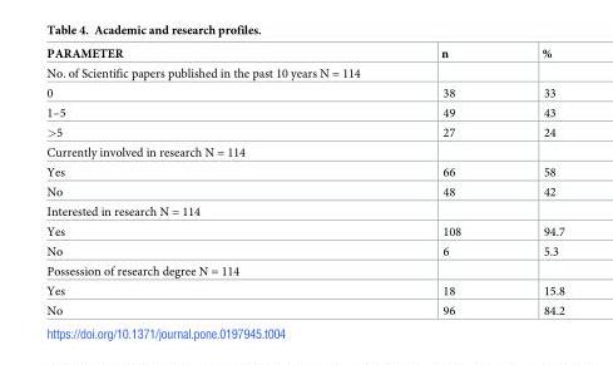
<table><thead><tr><td>PARAMETER</td><td>n</td><td>%</td></tr></thead><tbody><tr><td colspan="3">No. of Scientific papers published in the past 10 years N = 114</td></tr><tr><td>0</td><td>38</td><td>33</td></tr><tr><td>1–5</td><td>49</td><td>43</td></tr><tr><td>&gt;5</td><td>27</td><td>24</td></tr><tr><td colspan="3">Currently involved in research N = 114</td></tr><tr><td>Yes</td><td>66</td><td>58</td></tr><tr><td>No</td><td>48</td><td>42</td></tr><tr><td colspan="3">Interested in research N = 114</td></tr><tr><td>Yes</td><td>108</td><td>94.7</td></tr><tr><td>No</td><td>6</td><td>5.3</td></tr><tr><td colspan="3">Possession of research degree N = 114</td></tr><tr><td>Yes</td><td>18</td><td>15.8</td></tr><tr><td>No</td><td>96</td><td>84.2</td></tr></tbody></table>